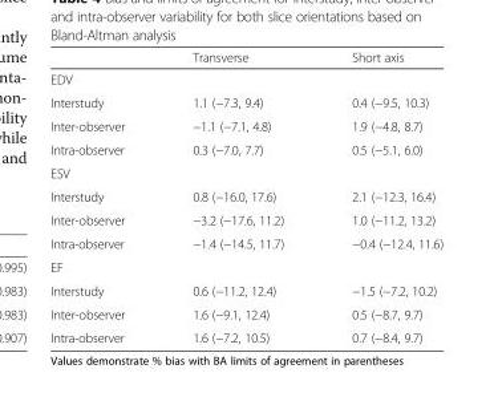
<table><thead><tr><td></td><td>Transverse</td><td>Short axis</td></tr></thead><tbody><tr><td colspan="3">EDV</td></tr><tr><td>Interstudy</td><td>1.1 (−7.3, 9.4)</td><td>0.4 (−9.5, 10.3)</td></tr><tr><td>Inter-observer</td><td>−1.1 (−7.1, 4.8)</td><td>1.9 (−4.8, 8.7)</td></tr><tr><td>Intra-observer</td><td>0.3 (−7.0, 7.7)</td><td>0.5 (−5.1, 6.0)</td></tr><tr><td colspan="3">ESV</td></tr><tr><td>Interstudy</td><td>0.8 (−16.0, 17.6)</td><td>2.1 (−12.3, 16.4)</td></tr><tr><td>Inter-observer</td><td>−3.2 (−17.6, 11.2)</td><td>1.0 (−11.2, 13.2)</td></tr><tr><td>Intra-observer</td><td>−1.4 (−14.5, 11.7)</td><td>−0.4 (−12.4, 11.6)</td></tr><tr><td colspan="3">EF</td></tr><tr><td>Interstudy</td><td>0.6 (−11.2, 12.4)</td><td>−1.5 (−7.2, 10.2)</td></tr><tr><td>Inter-observer</td><td>1.6 (−9.1, 12.4)</td><td>0.5 (−8.7, 9.7)</td></tr><tr><td>Intra-observer</td><td>1.6 (−7.2, 10.5)</td><td>0.7 (−8.4, 9.7)</td></tr></tbody></table>